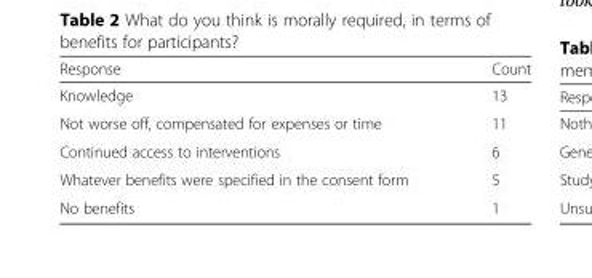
<table><thead><tr><td>Response</td><td>Count</td></tr></thead><tbody><tr><td>Knowledge</td><td>13</td></tr><tr><td>Not worse off, compensated for expenses or time</td><td>11</td></tr><tr><td>Continued access to interventions</td><td>6</td></tr><tr><td>Whatever benefits were specified in the consent form</td><td>5</td></tr><tr><td>No benefits</td><td>1</td></tr></tbody></table>